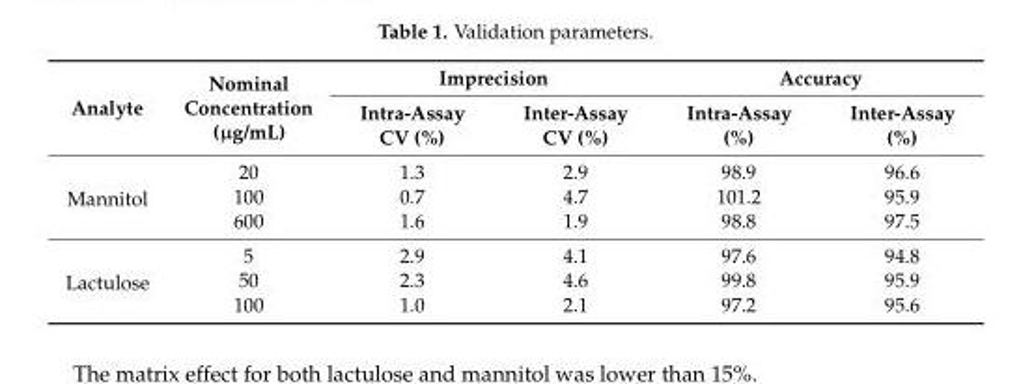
<table><thead><tr><td rowspan="2">Analyte</td><td rowspan="2">Nominal Concentration (µg/mL)</td><td colspan="2">Imprecision</td><td colspan="2">Accuracy</td></tr><tr><td>Intra-Assay CV (%)</td><td>Inter-Assay CV (%)</td><td>Intra-Assay (%)</td><td>Inter-Assay (%)</td></tr></thead><tbody><tr><td rowspan="3">Mannitol</td><td>20</td><td>1.3</td><td>2.9</td><td>98.9</td><td>96.6</td></tr><tr><td>100</td><td>0.7</td><td>4.7</td><td>101.2</td><td>95.9</td></tr><tr><td>600</td><td>1.6</td><td>1.9</td><td>98.8</td><td>97.5</td></tr><tr><td rowspan="3">Lactulose</td><td>5</td><td>2.9</td><td>4.1</td><td>97.6</td><td>94.8</td></tr><tr><td>50</td><td>2.3</td><td>4.6</td><td>99.8</td><td>95.9</td></tr><tr><td>100</td><td>1.0</td><td>2.1</td><td>97.2</td><td>95.6</td></tr></tbody></table>